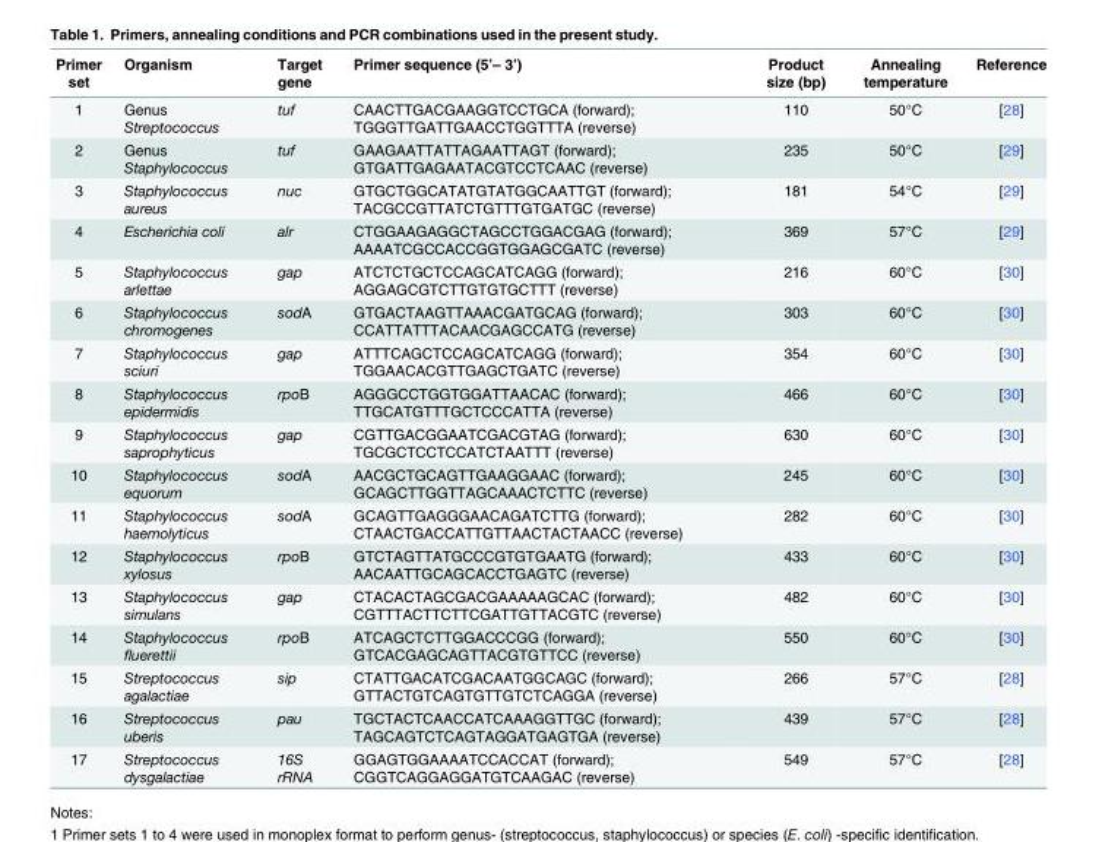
<table><thead><tr><td>Primer set</td><td>Organism</td><td>Target gene</td><td>Primer sequence (5’– 3’)</td><td>Product size (bp)</td><td>Annealing temperature</td><td>Reference</td></tr></thead><tbody><tr><td>1</td><td>Genus Streptococcus</td><td>tuf</td><td>CAACTTGACGAAGGTCCTGCA (forward); TGGGTTGATTGAACCTGGTTTA (reverse)</td><td>110</td><td>50°C</td><td>[28]</td></tr><tr><td>2</td><td>Genus Staphylococcus</td><td>tuf</td><td>GAAGAATTATTAGAATTAGT (forward); GTGATTGAGAATACGTCCTCAAC (reverse)</td><td>235</td><td>50°C</td><td>[29]</td></tr><tr><td>3</td><td>Staphylococcus aureus</td><td>nuc</td><td>GTGCTGGCATATGTATGGCAATTGT (forward); TACGCCGTTATCTGTTTGTGATGC (reverse)</td><td>181</td><td>54°C</td><td>[29]</td></tr><tr><td>4</td><td>Escherichia coli</td><td>alr</td><td>CTGGAAGAGGCTAGCCTGGACGAG (forward); AAAATCGCCACCGGTGGAGCGATC (reverse)</td><td>369</td><td>57°C</td><td>[29]</td></tr><tr><td>5</td><td>Staphylococcus arlettae</td><td>gap</td><td>ATCTCTGCTCCAGCATCAGG (forward); AGGAGCGTCTTGTGTGCTTT (reverse)</td><td>216</td><td>60°C</td><td>[30]</td></tr><tr><td>6</td><td>Staphylococcus chromogenes</td><td>sodA</td><td>GTGACTAAGTTAAACGATGCAG (forward); CCATTATTTACAACGAGCCATG (reverse)</td><td>303</td><td>60°C</td><td>[30]</td></tr><tr><td>7</td><td>Staphylococcus sciuri</td><td>gap</td><td>ATTTCAGCTCCAGCATCAGG (forward); TGGAACACGTTGAGCTGATC (reverse)</td><td>354</td><td>60°C</td><td>[30]</td></tr><tr><td>8</td><td>Staphylococcus epidermidis</td><td>rpoB</td><td>AGGGCCTGGTGGATTAACAC (forward); TTGCATGTTTGCTCCCATTA (reverse)</td><td>466</td><td>60°C</td><td>[30]</td></tr><tr><td>9</td><td>Staphylococcus saprophyticus</td><td>gap</td><td>CGTTGACGGAATCGACGTAG (forward); TGCGCTCCTCCATCTAATTT (reverse)</td><td>630</td><td>60°C</td><td>[30]</td></tr><tr><td>10</td><td>Staphylococcus equorum</td><td>sodA</td><td>AACGCTGCAGTTGAAGGAAC (forward); GCAGCTTGGTTAGCAAACTCTTC (reverse)</td><td>245</td><td>60°C</td><td>[30]</td></tr><tr><td>11</td><td>Staphylococcus haemolyticus</td><td>sodA</td><td>GCAGTTGAGGGAACAGATCTTG (forward); CTAACTGACCATTGTTAACTACTAACC (reverse)</td><td>282</td><td>60°C</td><td>[30]</td></tr><tr><td>12</td><td>Staphylococcus xylosus</td><td>rpoB</td><td>GTCTAGTTATGCCCGTGTGAATG (forward); AACAATTGCAGCACCTGAGTC (reverse)</td><td>433</td><td>60°C</td><td>[30]</td></tr><tr><td>13</td><td>Staphylococcus simulans</td><td>gap</td><td>CTACACTAGCGACGAAAAAGCAC (forward); CGTTTACTTCTTCGATTGTTACGTC (reverse)</td><td>482</td><td>60°C</td><td>[30]</td></tr><tr><td>14</td><td>Staphylococcus fluerettii</td><td>rpoB</td><td>ATCAGCTCTTGGACCCGG (forward); GTCACGAGCAGTTACGTGTTCC (reverse)</td><td>550</td><td>60°C</td><td>[30]</td></tr><tr><td>15</td><td>Streptococcus agalactiae</td><td>sip</td><td>CTATTGACATCGACAATGGCAGC (forward); GTTACTGTCAGTGTTGTCTCAGGA (reverse)</td><td>266</td><td>57°C</td><td>[28]</td></tr><tr><td>16</td><td>Streptococcus uberis</td><td>pau</td><td>TGCTACTCAACCATCAAAGGTTGC (forward); TAGCAGTCTCAGTAGGATGAGTGA (reverse)</td><td>439</td><td>57°C</td><td>[28]</td></tr><tr><td>17</td><td>Streptococcus dysgalactiae</td><td>16S rRNA</td><td>GGAGTGGAAAATCCACCAT (forward); CGGTCAGGAGGATGTCAAGAC (reverse)</td><td>549</td><td>57°C</td><td>[28]</td></tr></tbody></table>